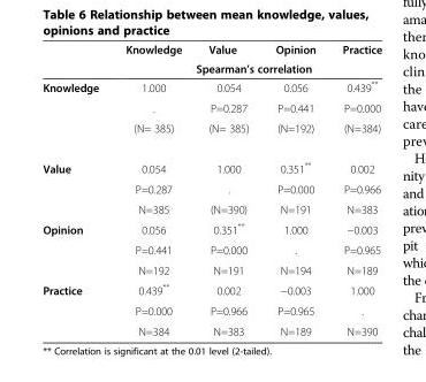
<table><thead><tr><td rowspan="2"></td><td>Knowledge</td><td>Value</td><td>Opinion</td><td>Practice</td></tr><tr><td colspan="4">Spearman’s correlation</td></tr></thead><tbody><tr><td rowspan="3">Knowledge</td><td>1.000</td><td>0.054</td><td>0.056</td><td>0.439**</td></tr><tr><td>.</td><td>P=0.287</td><td>P=0.441</td><td>P=0.000</td></tr><tr><td>(N= 385)</td><td>(N= 385)</td><td>(N=192)</td><td>(N=384)</td></tr><tr><td rowspan="3">Value</td><td>0.054</td><td>1.000</td><td>0.351**</td><td>0.002</td></tr><tr><td>P=0.287</td><td>.</td><td>P=0.000</td><td>P=0.966</td></tr><tr><td>N=385</td><td>(N=390)</td><td>N=191</td><td>N=383</td></tr><tr><td rowspan="3">Opinion</td><td>0.056</td><td>0.351**</td><td>1.000</td><td>−0.003</td></tr><tr><td>P=0.441</td><td>P=0.000</td><td>.</td><td>P=0.965</td></tr><tr><td>N=192</td><td>N=191</td><td>N=194</td><td>N=189</td></tr><tr><td rowspan="3">Practice</td><td>0.439**</td><td>0.002</td><td>−0.003</td><td>1.000</td></tr><tr><td>P=0.000</td><td>P=0.966</td><td>P=0.965</td><td>.</td></tr><tr><td>N=384</td><td>N=383</td><td>N=189</td><td>N=390</td></tr></tbody></table>